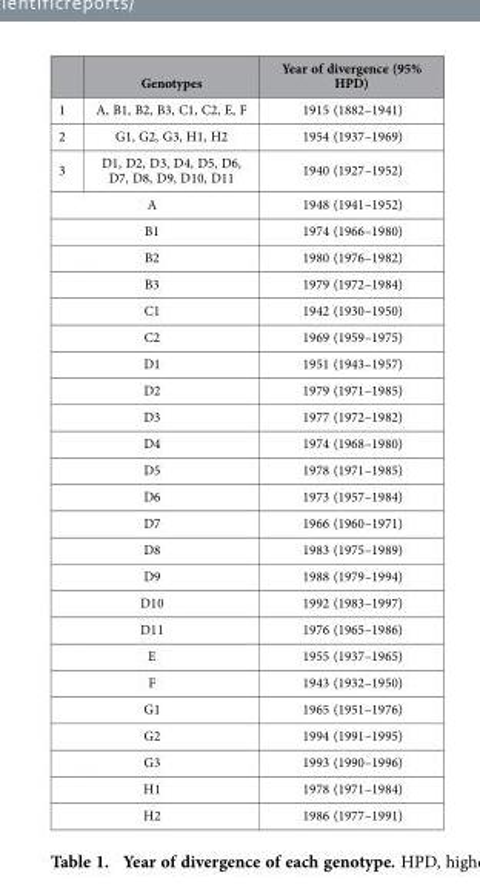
<table><thead><tr><td></td><td>Genotypes</td><td>Year of divergence (95% HPD)</td></tr></thead><tbody><tr><td>1</td><td>A, B1, B2, B3, C1, C2, E, F</td><td>1915 (1882–1941)</td></tr><tr><td>2</td><td>G1, G2, G3, H1, H2</td><td>1954 (1937–1969)</td></tr><tr><td>3</td><td>D1, D2, D3, D4, D5, D6, D7, D8, D9, D10, D11</td><td>1940 (1927–1952)</td></tr><tr><td colspan="2">A</td><td>1948 (1941–1952)</td></tr><tr><td colspan="2">B1</td><td>1974 (1966–1980)</td></tr><tr><td colspan="2">B2</td><td>1980 (1976–1982)</td></tr><tr><td colspan="2">B3</td><td>1979 (1972–1984)</td></tr><tr><td colspan="2">C1</td><td>1942 (1930–1950)</td></tr><tr><td colspan="2">C2</td><td>1969 (1959–1975)</td></tr><tr><td colspan="2">D1</td><td>1951 (1943–1957)</td></tr><tr><td colspan="2">D2</td><td>1979 (1971–1985)</td></tr><tr><td colspan="2">D3</td><td>1977 (1972–1982)</td></tr><tr><td colspan="2">D4</td><td>1974 (1968–1980)</td></tr><tr><td colspan="2">D5</td><td>1978 (1971–1985)</td></tr><tr><td colspan="2">D6</td><td>1973 (1957–1984)</td></tr><tr><td colspan="2">D7</td><td>1966 (1960–1971)</td></tr><tr><td colspan="2">D8</td><td>1983 (1975–1989)</td></tr><tr><td colspan="2">D9</td><td>1988 (1979–1994)</td></tr><tr><td colspan="2">D10</td><td>1992 (1983–1997)</td></tr><tr><td colspan="2">D11</td><td>1976 (1965–1986)</td></tr><tr><td colspan="2">E</td><td>1955 (1937–1965)</td></tr><tr><td colspan="2">F</td><td>1943 (1932–1950)</td></tr><tr><td colspan="2">G1</td><td>1965 (1951–1976)</td></tr><tr><td colspan="2">G2</td><td>1994 (1991–1995)</td></tr><tr><td colspan="2">G3</td><td>1993 (1990–1996)</td></tr><tr><td colspan="2">H1</td><td>1978 (1971–1984)</td></tr><tr><td colspan="2">H2</td><td>1986 (1977–1991)</td></tr></tbody></table>